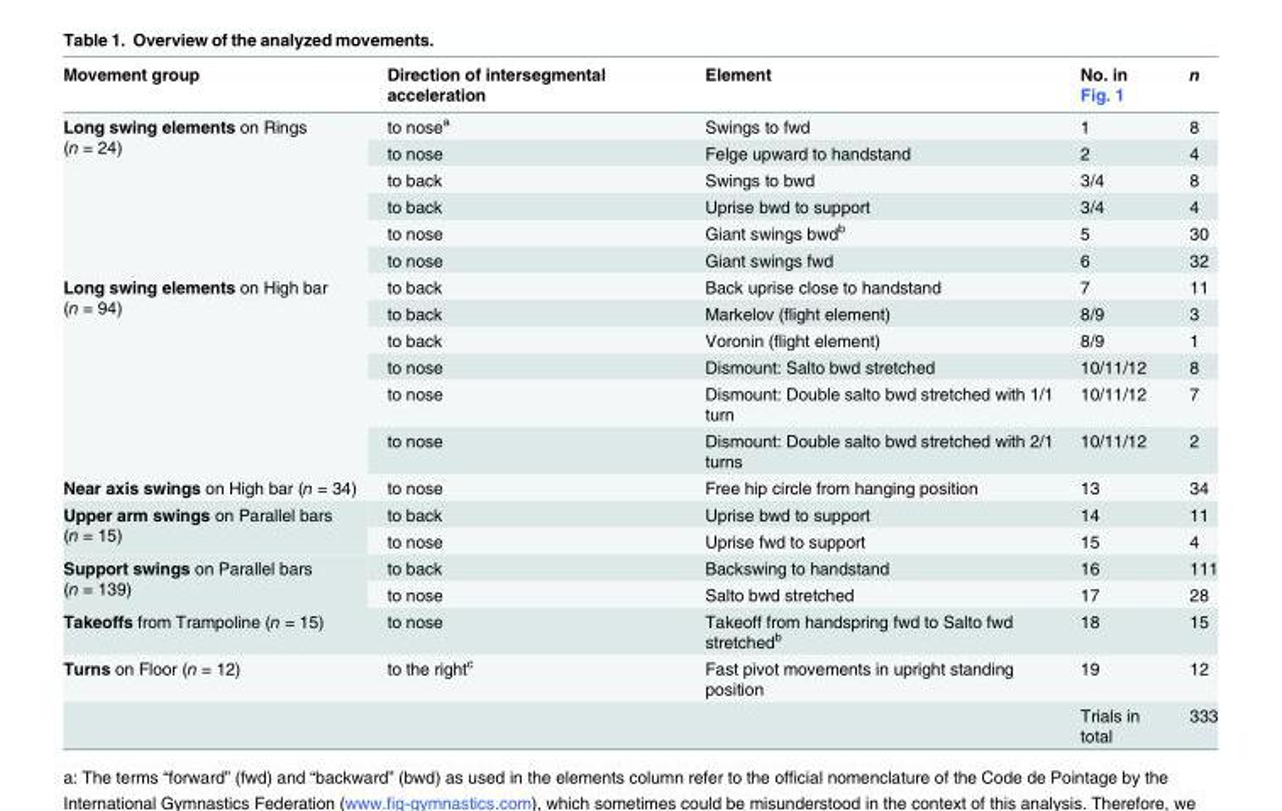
<table><thead><tr><td>Movement group</td><td>Direction of intersegmental acceleration</td><td>Element</td><td>No. in Fig. 1</td><td>n</td></tr></thead><tbody><tr><td rowspan="6">Long swing elements on Rings (n = 24)</td><td>to nose<sup>a</sup></td><td>Swings to fwd</td><td>1</td><td>8</td></tr><tr><td>to nose</td><td>Felge upward to handstand</td><td>2</td><td>4</td></tr><tr><td>to back</td><td>Swings to bwd</td><td>3/4</td><td>8</td></tr><tr><td>to back</td><td>Uprise bwd to support</td><td>3/4</td><td>4</td></tr><tr><td>to nose</td><td>Giant swings bwd<sup>b</sup></td><td>5</td><td>30</td></tr><tr><td>to nose</td><td>Giant swings fwd</td><td>6</td><td>32</td></tr><tr><td rowspan="6">Long swing elements on High bar (n = 94)</td><td>to back</td><td>Back uprise close to handstand</td><td>7</td><td>11</td></tr><tr><td>to back</td><td>Markelov (flight element)</td><td>8/9</td><td>3</td></tr><tr><td>to back</td><td>Voronin (flight element)</td><td>8/9</td><td>1</td></tr><tr><td>to nose</td><td>Dismount: Salto bwd stretched</td><td>10/11/12</td><td>8</td></tr><tr><td>to nose</td><td>Dismount: Double salto bwd stretched with 1/1 turn</td><td>10/11/12</td><td>7</td></tr><tr><td>to nose</td><td>Dismount: Double salto bwd stretched with 2/1 turns</td><td>10/11/12</td><td>2</td></tr><tr><td>Near axis swings on High bar (n = 34)</td><td>to nose</td><td>Free hip circle from hanging position</td><td>13</td><td>34</td></tr><tr><td rowspan="2">Upper arm swings on Parallel bars (n = 15)</td><td>to back</td><td>Uprise bwd to support</td><td>14</td><td>11</td></tr><tr><td>to nose</td><td>Uprise fwd to support</td><td>15</td><td>4</td></tr><tr><td rowspan="2">Support swings on Parallel bars (n = 139)</td><td>to back</td><td>Backswing to handstand</td><td>16</td><td>111</td></tr><tr><td>to nose</td><td>Salto bwd stretched</td><td>17</td><td>28</td></tr><tr><td>Takeoffs from Trampoline (n = 15)</td><td>to nose</td><td>Takeoff from handspring fwd to Salto fwd stretched<sup>b</sup></td><td>18</td><td>15</td></tr><tr><td rowspan="2">Turns on Floor (n = 12)</td><td>to the right<sup>c</sup></td><td>Fast pivot movements in upright standing position</td><td>19</td><td>12</td></tr><tr><td></td><td></td><td>Trials in total</td><td>333</td></tr></tbody></table>